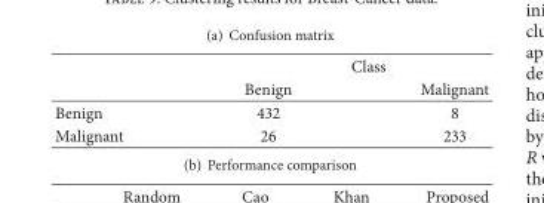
<table><thead><tr><td rowspan="2"></td><td colspan="2">Class</td></tr><tr><td>Benign</td><td>Malignant</td></tr></thead><tbody><tr><td>Benign</td><td>432</td><td>8</td></tr><tr><td>Malignant</td><td>26</td><td>233</td></tr></tbody></table>